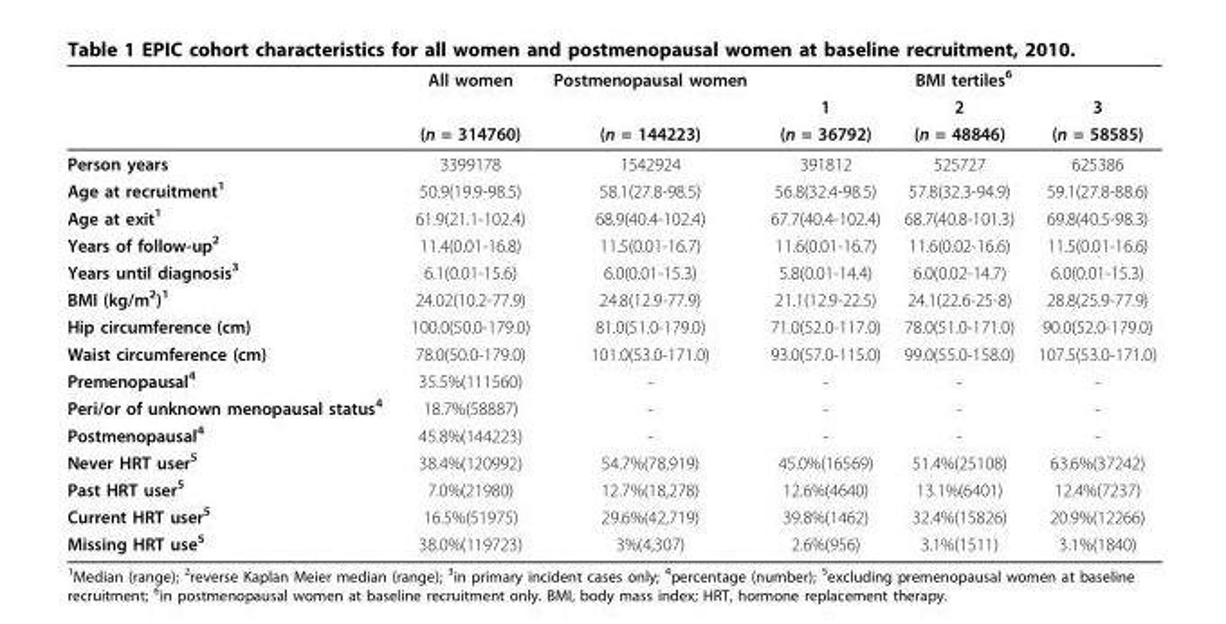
<table><thead><tr><td rowspan="3"></td><td rowspan="3">All women (n = 314760)</td><td rowspan="3">Postmenopausal women (n = 144223)</td><td colspan="3">BMI tertiles<sup>6</sup></td></tr><tr><td rowspan="2">1 (n = 36792)</td><td rowspan="2">2 (n = 48846)</td><td rowspan="2">3 (n = 58585)</td></tr><tr></tr></thead><tbody><tr><td>Person years</td><td>3399178</td><td>1542924</td><td>391812</td><td>525727</td><td>625386</td></tr><tr><td>Age at recruitment<sup>1</sup></td><td>50.9(19.9-98.5)</td><td>58.1(27.8-98.5)</td><td>56.8(32.4-98.5)</td><td>57.8(32.3-94.9)</td><td>59.1(27.8-88.6)</td></tr><tr><td>Age at exit<sup>1</sup></td><td>61.9(21.1-102.4)</td><td>68.9(40.4-102.4)</td><td>67.7(40.4-102.4)</td><td>68.7(40.8-101.3)</td><td>69.8(40.5-98.3)</td></tr><tr><td>Years of follow-up<sup>2</sup></td><td>11.4(0.01-16.8)</td><td>11.5(0.01-16.7)</td><td>11.6(0.01-16.7)</td><td>11.6(0.02-16.6)</td><td>11.5(0.01-16.6)</td></tr><tr><td>Years until diagnosis<sup>3</sup></td><td>6.1(0.01-15.6)</td><td>6.0(0.01-15.3)</td><td>5.8(0.01-14.4)</td><td>6.0(0.02-14.7)</td><td>6.0(0.01-15.3)</td></tr><tr><td>BMI (kg/m<sup>2</sup>)<sup>1</sup></td><td>24.02(10.2-77.9)</td><td>24.8(12.9-77.9)</td><td>21.1(12.9-22.5)</td><td>24.1(22.6-25-8)</td><td>28.8(25.9-77.9)</td></tr><tr><td>Hip circumference (cm)</td><td>100.0(50.0-179.0)</td><td>81.0(51.0-179.0)</td><td>71.0(52.0-117.0)</td><td>78.0(51.0-171.0)</td><td>90.0(52.0-179.0)</td></tr><tr><td>Waist circumference (cm)</td><td>78.0(50.0-179.0)</td><td>101.0(53.0-171.0)</td><td>93.0(57.0-115.0)</td><td>99.0(55.0-158.0)</td><td>107.5(53.0-171.0)</td></tr><tr><td>Premenopausal<sup>4</sup></td><td>35.5%(111560)</td><td>-</td><td>-</td><td>-</td><td>-</td></tr><tr><td>Peri/or of unknown menopausal status<sup>4</sup></td><td>18.7%(58887)</td><td>-</td><td>-</td><td>-</td><td>-</td></tr><tr><td>Postmenopausal<sup>4</sup></td><td>45.8%(144223)</td><td>-</td><td>-</td><td>-</td><td>-</td></tr><tr><td>Never HRT user<sup>5</sup></td><td>38.4%(120992)</td><td>54.7%(78,919)</td><td>45.0%(16569)</td><td>51.4%(25108)</td><td>63.6%(37242)</td></tr><tr><td>Past HRT user<sup>5</sup></td><td>7.0%(21980)</td><td>12.7%(18,278)</td><td>12.6%(4640)</td><td>13.1%(6401)</td><td>12.4%(7237)</td></tr><tr><td>Current HRT user<sup>5</sup></td><td>16.5%(51975)</td><td>29.6%(42,719)</td><td>39.8%(1462)</td><td>32.4%(15826)</td><td>20.9%(12266)</td></tr><tr><td>Missing HRT use<sup>5</sup></td><td>38.0%(119723)</td><td>3%(4,307)</td><td>2.6%(956)</td><td>3.1%(1511)</td><td>3.1%(1840)</td></tr></tbody></table>